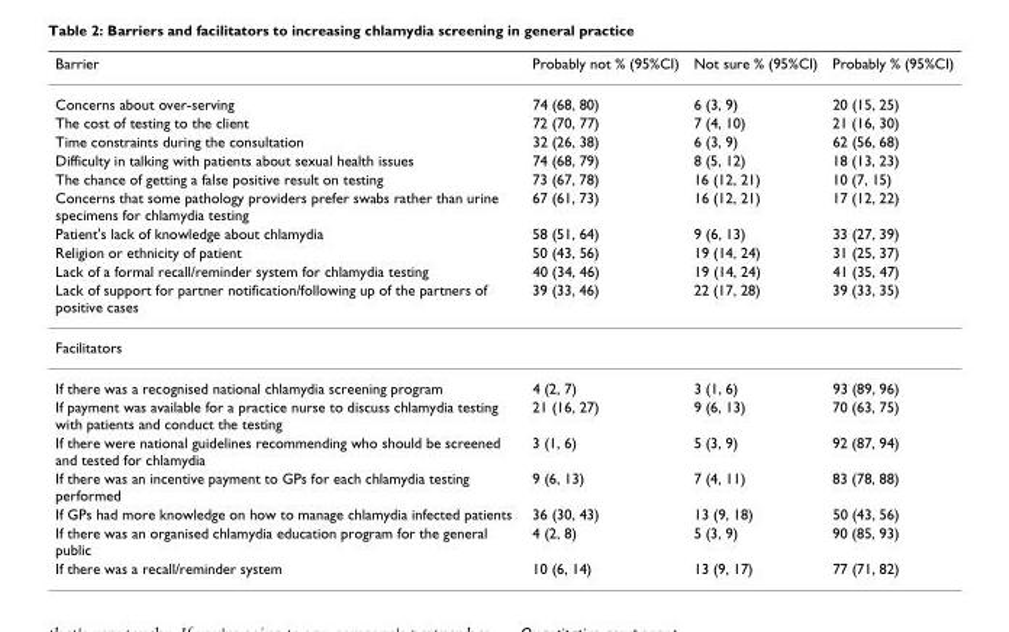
<table><thead><tr><td>Barrier</td><td>Probably not % (95%CI)</td><td>Not sure % (95%CI)</td><td>Probably % (95%CI)</td></tr></thead><tbody><tr><td>Concerns about over-serving</td><td>74 (68, 80)</td><td>6 (3, 9)</td><td>20 (15, 25)</td></tr><tr><td>The cost of testing to the client</td><td>72 (70, 77)</td><td>7 (4, 10)</td><td>21 (16, 30)</td></tr><tr><td>Time constraints during the consultation</td><td>32 (26, 38)</td><td>6 (3, 9)</td><td>62 (56, 68)</td></tr><tr><td>Difficulty in talking with patients about sexual health issues</td><td>74 (68, 79)</td><td>8 (5, 12)</td><td>18 (13, 23)</td></tr><tr><td>The chance of getting a false positive result on testing</td><td>73 (67, 78)</td><td>16 (12, 21)</td><td>10 (7, 15)</td></tr><tr><td>Concerns that some pathology providers prefer swabs rather than urine specimens for chlamydia testing</td><td>67 (61, 73)</td><td>16 (12, 21)</td><td>17 (12, 22)</td></tr><tr><td>Patient&#x27;s lack of knowledge about chlamydia</td><td>58 (51, 64)</td><td>9 (6, 13)</td><td>33 (27, 39)</td></tr><tr><td>Religion or ethnicity of patient</td><td>50 (43, 56)</td><td>19 (14, 24)</td><td>31 (25, 37)</td></tr><tr><td>Lack of a formal recall/reminder system for chlamydia testing</td><td>40 (34, 46)</td><td>19 (14, 24)</td><td>41 (35, 47)</td></tr><tr><td>Lack of support for partner notification/following up of the partners of positive cases</td><td>39 (33, 46)</td><td>22 (17, 28)</td><td>39 (33, 35)</td></tr><tr><td colspan="4">Facilitators</td></tr><tr><td>If there was a recognised national chlamydia screening program</td><td>4 (2, 7)</td><td>3 (1, 6)</td><td>93 (89, 96)</td></tr><tr><td>If payment was available for a practice nurse to discuss chlamydia testing with patients and conduct the testing</td><td>21 (16, 27)</td><td>9 (6, 13)</td><td>70 (63, 75)</td></tr><tr><td>If there were national guidelines recommending who should be screened and tested for chlamydia</td><td>3 (1, 6)</td><td>5 (3, 9)</td><td>92 (87, 94)</td></tr><tr><td>If there was an incentive payment to GPs for each chlamydia testing performed</td><td>9 (6, 13)</td><td>7 (4, 11)</td><td>83 (78, 88)</td></tr><tr><td>If GPs had more knowledge on how to manage chlamydia infected patients</td><td>36 (30, 43)</td><td>13 (9, 18)</td><td>50 (43, 56)</td></tr><tr><td>If there was an organised chlamydia education program for the general public</td><td>4 (2, 8)</td><td>5 (3, 9)</td><td>90 (85, 93)</td></tr><tr><td>If there was a recall/reminder system</td><td>10 (6, 14)</td><td>13 (9, 17)</td><td>77 (71, 82)</td></tr></tbody></table>